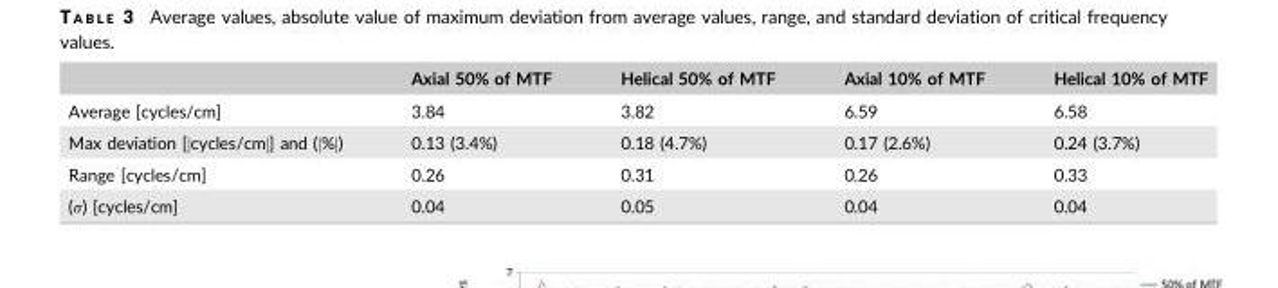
<table><thead><tr><td></td><td>Axial 50% of MTF</td><td>Helical 50% of MTF</td><td>Axial 10% of MTF</td><td>Helical 10% of MTF</td></tr></thead><tbody><tr><td>Average [cycles/cm]</td><td>3.84</td><td>3.82</td><td>6.59</td><td>6.58</td></tr><tr><td>Max deviation [|cycles/cm|] and (|%|)</td><td>0.13 (3.4%)</td><td>0.18 (4.7%)</td><td>0.17 (2.6%)</td><td>0.24 (3.7%)</td></tr><tr><td>Range [cycles/cm]</td><td>0.26</td><td>0.31</td><td>0.26</td><td>0.33</td></tr><tr><td>(σ) [cycles/cm]</td><td>0.04</td><td>0.05</td><td>0.04</td><td>0.04</td></tr></tbody></table>